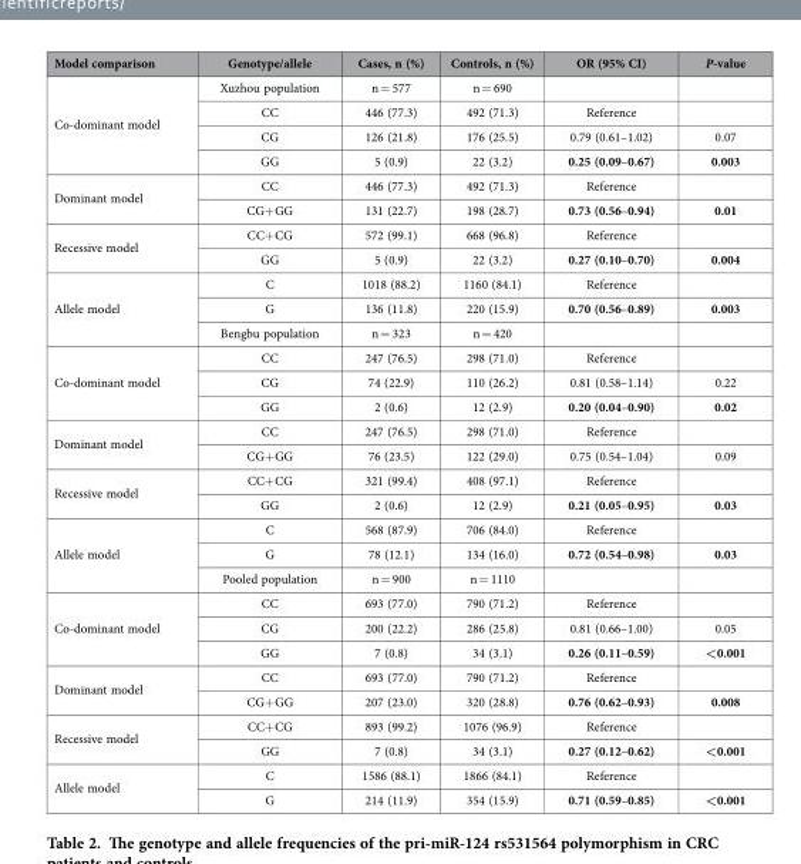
<table><thead><tr><td>Model comparison</td><td>Genotype/allele</td><td>Cases, n (%)</td><td>Controls, n (%)</td><td>OR (95% CI)</td><td>P-value</td></tr></thead><tbody><tr><td rowspan="4">Co-dominant model</td><td>Xuzhou population</td><td>n = 577</td><td>n = 690</td><td></td><td></td></tr><tr><td>CC</td><td>446 (77.3)</td><td>492 (71.3)</td><td>Reference</td><td></td></tr><tr><td>CG</td><td>126 (21.8)</td><td>176 (25.5)</td><td>0.79 (0.61–1.02)</td><td>0.07</td></tr><tr><td>GG</td><td>5 (0.9)</td><td>22 (3.2)</td><td>0.25 (0.09–0.67)</td><td>0.003</td></tr><tr><td rowspan="2">Dominant model</td><td>CC</td><td>446 (77.3)</td><td>492 (71.3)</td><td>Reference</td><td></td></tr><tr><td>CG+ GG</td><td>131 (22.7)</td><td>198 (28.7)</td><td>0.73 (0.56–0.94)</td><td>0.01</td></tr><tr><td rowspan="2">Recessive model</td><td>CC+ CG</td><td>572 (99.1)</td><td>668 (96.8)</td><td>Reference</td><td></td></tr><tr><td>GG</td><td>5 (0.9)</td><td>22 (3.2)</td><td>0.27 (0.10–0.70)</td><td>0.004</td></tr><tr><td rowspan="3">Allele model</td><td>C</td><td>1018 (88.2)</td><td>1160 (84.1)</td><td>Reference</td><td></td></tr><tr><td>G</td><td>136 (11.8)</td><td>220 (15.9)</td><td>0.70 (0.56–0.89)</td><td>0.003</td></tr><tr><td>Bengbu population</td><td>n = 323</td><td>n = 420</td><td></td><td></td></tr><tr><td rowspan="3">Co-dominant model</td><td>CC</td><td>247 (76.5)</td><td>298 (71.0)</td><td>Reference</td><td></td></tr><tr><td>CG</td><td>74 (22.9)</td><td>110 (26.2)</td><td>0.81 (0.58–1.14)</td><td>0.22</td></tr><tr><td>GG</td><td>2 (0.6)</td><td>12 (2.9)</td><td>0.20 (0.04–0.90)</td><td>0.02</td></tr><tr><td rowspan="2">Dominant model</td><td>CC</td><td>247 (76.5)</td><td>298 (71.0)</td><td>Reference</td><td></td></tr><tr><td>CG+ GG</td><td>76 (23.5)</td><td>122 (29.0)</td><td>0.75 (0.54–1.04)</td><td>0.09</td></tr><tr><td rowspan="2">Recessive model</td><td>CC+ CG</td><td>321 (99.4)</td><td>408 (97.1)</td><td>Reference</td><td></td></tr><tr><td>GG</td><td>2 (0.6)</td><td>12 (2.9)</td><td>0.21 (0.05–0.95)</td><td>0.03</td></tr><tr><td rowspan="3">Allele model</td><td>C</td><td>568 (87.9)</td><td>706 (84.0)</td><td>Reference</td><td></td></tr><tr><td>G</td><td>78 (12.1)</td><td>134 (16.0)</td><td>0.72 (0.54–0.98)</td><td>0.03</td></tr><tr><td>Pooled population</td><td>n = 900</td><td>n = 1110</td><td></td><td></td></tr><tr><td rowspan="3">Co-dominant model</td><td>CC</td><td>693 (77.0)</td><td>790 (71.2)</td><td>Reference</td><td></td></tr><tr><td>CG</td><td>200 (22.2)</td><td>286 (25.8)</td><td>0.81 (0.66–1.00)</td><td>0.05</td></tr><tr><td>GG</td><td>7 (0.8)</td><td>34 (3.1)</td><td>0.26 (0.11–0.59)</td><td>&lt;0.001</td></tr><tr><td rowspan="2">Dominant model</td><td>CC</td><td>693 (77.0)</td><td>790 (71.2)</td><td>Reference</td><td></td></tr><tr><td>CG+ GG</td><td>207 (23.0)</td><td>320 (28.8)</td><td>0.76 (0.62–0.93)</td><td>0.008</td></tr><tr><td rowspan="2">Recessive model</td><td>CC+ CG</td><td>893 (99.2)</td><td>1076 (96.9)</td><td>Reference</td><td></td></tr><tr><td>GG</td><td>7 (0.8)</td><td>34 (3.1)</td><td>0.27 (0.12–0.62)</td><td>&lt;0.001</td></tr><tr><td rowspan="2">Allele model</td><td>C</td><td>1586 (88.1)</td><td>1866 (84.1)</td><td>Reference</td><td></td></tr><tr><td>G</td><td>214 (11.9)</td><td>354 (15.9)</td><td>0.71 (0.59–0.85)</td><td>&lt;0.001</td></tr></tbody></table>